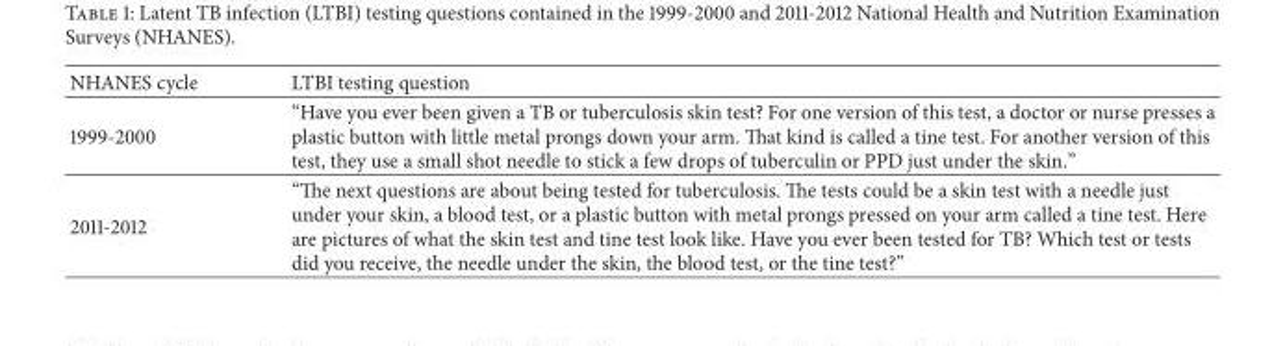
<table><thead><tr><td>NHANES cycle</td><td>LTBI testing question</td></tr></thead><tbody><tr><td>1999-2000</td><td>“Have you ever been given a TB or tuberculosis skin test? For one version of this test, a doctor or nurse presses a plastic button with little metal prongs down your arm. That kind is called a tine test. For another version of this test, they use a small shot needle to stick a few drops of tuberculin or PPD just under the skin.”</td></tr><tr><td>2011-2012</td><td>“The next questions are about being tested for tuberculosis. The tests could be a skin test with a needle just under your skin, a blood test, or a plastic button with metal prongs pressed on your arm called a tine test. Here are pictures of what the skin test and tine test look like. Have you ever been tested for TB? Which test or tests did you receive, the needle under the skin, the blood test, or the tine test?”</td></tr></tbody></table>